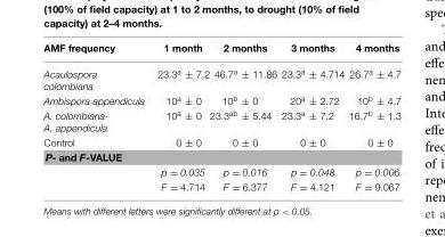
<table><thead><tr><td>AMF frequency</td><td>1 month</td><td>2 months</td><td>3 months</td><td>4 months</td></tr></thead><tbody><tr><td>Acaulospora colombiana</td><td>23.3<sup>a</sup> ± 7.2</td><td>46.7<sup>a</sup> ± 11.86</td><td>23.3<sup>a</sup> ± 4.714</td><td>26.7<sup>a</sup> ± 4.7</td></tr><tr><td>Ambispora appendicula</td><td>10<sup>a</sup> ± 0</td><td>10<sup>b</sup> ± 0</td><td>20<sup>a</sup> ± 2.72</td><td>10<sup>b</sup> ± 4.7</td></tr><tr><td>A. colombiana- A. appendicula</td><td>10<sup>a</sup> ± 0</td><td>23.3<sup>ab</sup> ± 5.44</td><td>23.3<sup>a</sup> ± 7.2</td><td>16.7<sup>b</sup> ± 1.3</td></tr><tr><td>Control</td><td>0 ± 0</td><td>0 ± 0</td><td>0 ± 0</td><td>0 ± 0</td></tr><tr><td colspan="5">P- and F-VALUE</td></tr><tr><td></td><td>p = 0.035</td><td>p = 0.016</td><td>p = 0.048</td><td>p = 0.006</td></tr><tr><td></td><td>F = 4.714</td><td>F = 6.377</td><td>F = 4.121</td><td>F = 9.067</td></tr></tbody></table>